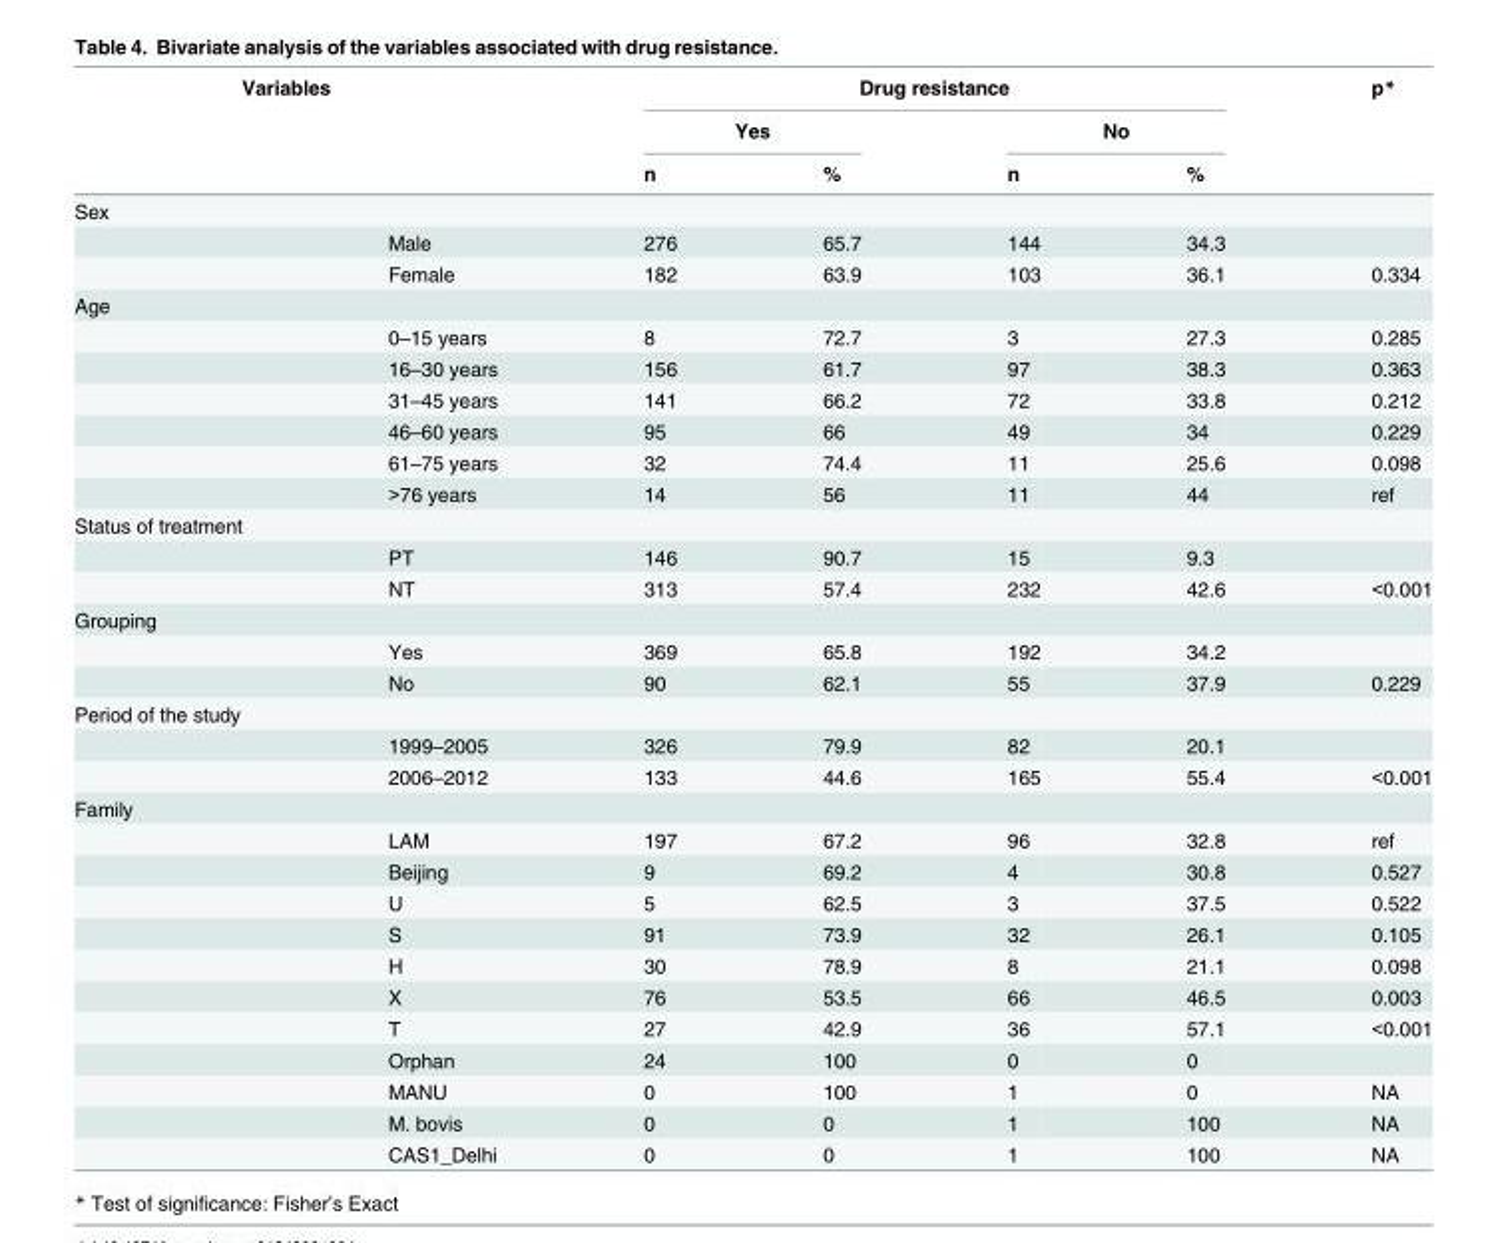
<table><thead><tr><td colspan="2">Variables</td><td colspan="4">Drug resistance</td><td rowspan="3">p*</td></tr><tr><td rowspan="2"></td><td rowspan="2"></td><td colspan="2">Yes</td><td colspan="2">No</td></tr><tr><td>n</td><td>%</td><td>n</td><td>%</td></tr></thead><tbody><tr><td colspan="7">Sex</td></tr><tr><td></td><td>Male</td><td>276</td><td>65.7</td><td>144</td><td>34.3</td><td></td></tr><tr><td></td><td>Female</td><td>182</td><td>63.9</td><td>103</td><td>36.1</td><td>0.334</td></tr><tr><td colspan="7">Age</td></tr><tr><td></td><td>0–15 years</td><td>8</td><td>72.7</td><td>3</td><td>27.3</td><td>0.285</td></tr><tr><td></td><td>16–30 years</td><td>156</td><td>61.7</td><td>97</td><td>38.3</td><td>0.363</td></tr><tr><td></td><td>31–45 years</td><td>141</td><td>66.2</td><td>72</td><td>33.8</td><td>0.212</td></tr><tr><td></td><td>46–60 years</td><td>95</td><td>66</td><td>49</td><td>34</td><td>0.229</td></tr><tr><td></td><td>61–75 years</td><td>32</td><td>74.4</td><td>11</td><td>25.6</td><td>0.098</td></tr><tr><td></td><td>&gt;76 years</td><td>14</td><td>56</td><td>11</td><td>44</td><td>ref</td></tr><tr><td colspan="7">Status of treatment</td></tr><tr><td></td><td>PT</td><td>146</td><td>90.7</td><td>15</td><td>9.3</td><td></td></tr><tr><td></td><td>NT</td><td>313</td><td>57.4</td><td>232</td><td>42.6</td><td>&lt;0.001</td></tr><tr><td colspan="7">Grouping</td></tr><tr><td></td><td>Yes</td><td>369</td><td>65.8</td><td>192</td><td>34.2</td><td></td></tr><tr><td></td><td>No</td><td>90</td><td>62.1</td><td>55</td><td>37.9</td><td>0.229</td></tr><tr><td colspan="7">Period of the study</td></tr><tr><td></td><td>1999–2005</td><td>326</td><td>79.9</td><td>82</td><td>20.1</td><td></td></tr><tr><td></td><td>2006–2012</td><td>133</td><td>44.6</td><td>165</td><td>55.4</td><td>&lt;0.001</td></tr><tr><td colspan="7">Family</td></tr><tr><td></td><td>LAM</td><td>197</td><td>67.2</td><td>96</td><td>32.8</td><td>ref</td></tr><tr><td></td><td>Beijing</td><td>9</td><td>69.2</td><td>4</td><td>30.8</td><td>0.527</td></tr><tr><td></td><td>U</td><td>5</td><td>62.5</td><td>3</td><td>37.5</td><td>0.522</td></tr><tr><td></td><td>S</td><td>91</td><td>73.9</td><td>32</td><td>26.1</td><td>0.105</td></tr><tr><td></td><td>H</td><td>30</td><td>78.9</td><td>8</td><td>21.1</td><td>0.098</td></tr><tr><td></td><td>X</td><td>76</td><td>53.5</td><td>66</td><td>46.5</td><td>0.003</td></tr><tr><td></td><td>T</td><td>27</td><td>42.9</td><td>36</td><td>57.1</td><td>&lt;0.001</td></tr><tr><td></td><td>Orphan</td><td>24</td><td>100</td><td>0</td><td>0</td><td></td></tr><tr><td></td><td>MANU</td><td>0</td><td>100</td><td>1</td><td>0</td><td>NA</td></tr><tr><td></td><td>M. bovis</td><td>0</td><td>0</td><td>1</td><td>100</td><td>NA</td></tr><tr><td></td><td>CAS1_Delhi</td><td>0</td><td>0</td><td>1</td><td>100</td><td>NA</td></tr></tbody></table>